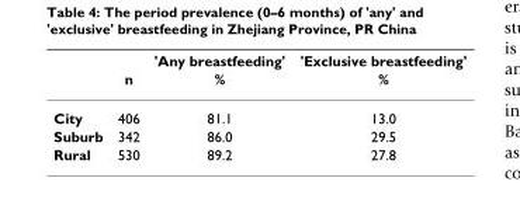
<table><thead><tr><td rowspan="2"></td><td rowspan="2">n</td><td rowspan="2">&#x27;Any breastfeeding&#x27; %</td><td rowspan="2">&#x27;Exclusive breastfeeding&#x27; %</td></tr><tr></tr></thead><tbody><tr><td>City</td><td>406</td><td>81.1</td><td>13.0</td></tr><tr><td>Suburb</td><td>342</td><td>86.0</td><td>29.5</td></tr><tr><td>Rural</td><td>530</td><td>89.2</td><td>27.8</td></tr></tbody></table>